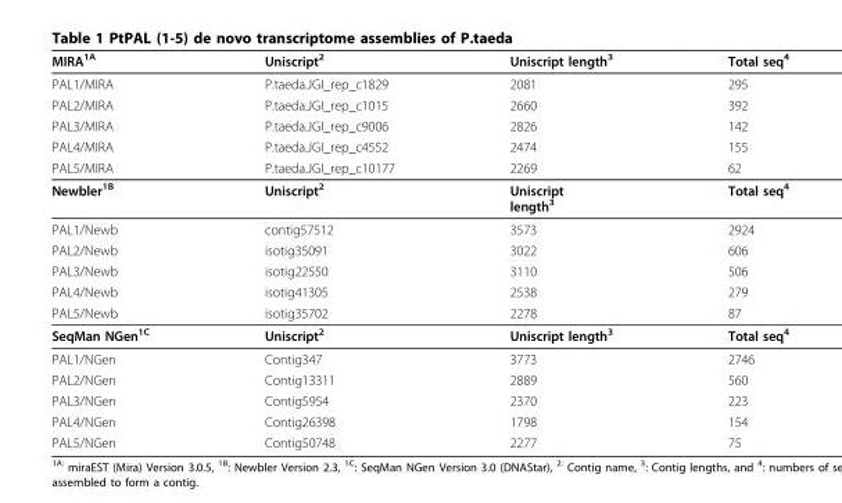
<table><thead><tr><td>MIRA<sup>1A</sup></td><td>Uniscript<sup>2</sup></td><td>Uniscript length<sup>3</sup></td><td>Total seq<sup>4</sup></td></tr></thead><tbody><tr><td>PAL1/MIRA</td><td>P.taeda.JGI_rep_c1829</td><td>2081</td><td>295</td></tr><tr><td>PAL2/MIRA</td><td>P.taeda.JGI_rep_c1015</td><td>2660</td><td>392</td></tr><tr><td>PAL3/MIRA</td><td>P.taeda.JGI_rep_c9006</td><td>2826</td><td>142</td></tr><tr><td>PAL4/MIRA</td><td>P.taeda.JGI_rep_c4552</td><td>2474</td><td>155</td></tr><tr><td>PAL5/MIRA</td><td>P.taeda.JGI_rep_c10177</td><td>2269</td><td>62</td></tr><tr><td>Newbler<sup>1B</sup></td><td>Uniscript<sup>2</sup></td><td>Uniscript length<sup>3</sup></td><td>Total seq<sup>4</sup></td></tr><tr><td>PAL1/Newb</td><td>contig57512</td><td>3573</td><td>2924</td></tr><tr><td>PAL2/Newb</td><td>isotig35091</td><td>3022</td><td>606</td></tr><tr><td>PAL3/Newb</td><td>isotig22550</td><td>3110</td><td>506</td></tr><tr><td>PAL4/Newb</td><td>isotig41305</td><td>2538</td><td>279</td></tr><tr><td>PAL5/Newb</td><td>isotig35702</td><td>2278</td><td>87</td></tr><tr><td>SeqMan NGen<sup>1C</sup></td><td>Uniscript<sup>2</sup></td><td>Uniscript length<sup>3</sup></td><td>Total seq<sup>4</sup></td></tr><tr><td>PAL1/NGen</td><td>Contig347</td><td>3773</td><td>2746</td></tr><tr><td>PAL2/NGen</td><td>Contig13311</td><td>2889</td><td>560</td></tr><tr><td>PAL3/NGen</td><td>Contig5954</td><td>2370</td><td>223</td></tr><tr><td>PAL4/NGen</td><td>Contig26398</td><td>1798</td><td>154</td></tr><tr><td>PAL5/NGen</td><td>Contig50748</td><td>2277</td><td>75</td></tr></tbody></table>